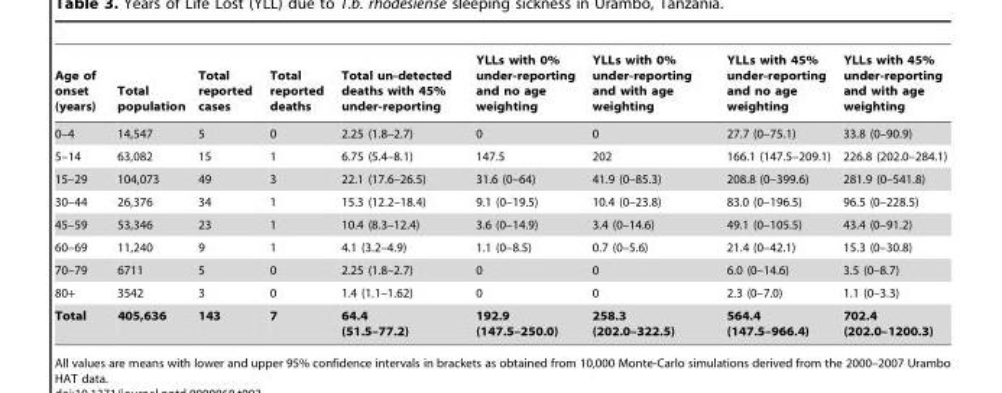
<table><thead><tr><td>Age of onset (years)</td><td>Total population</td><td>Total reported cases</td><td>Total reported deaths</td><td>Total un-detected deaths with 45% under-reporting</td><td>YLLs with 0% under-reporting and no age weighting</td><td>YLLs with 0% under-reporting and with age weighting</td><td>YLLs with 45% under-reporting and no age weighting</td><td>YLLs with 45% under-reporting and with age weighting</td></tr></thead><tbody><tr><td>0–4</td><td>14,547</td><td>5</td><td>0</td><td>2.25 (1.8–2.7)</td><td>0</td><td>0</td><td>27.7 (0–75.1)</td><td>33.8 (0–90.9)</td></tr><tr><td>5–14</td><td>63,082</td><td>15</td><td>1</td><td>6.75 (5.4–8.1)</td><td>147.5</td><td>202</td><td>166.1 (147.5–209.1)</td><td>226.8 (202.0–284.1)</td></tr><tr><td>15–29</td><td>104,073</td><td>49</td><td>3</td><td>22.1 (17.6–26.5)</td><td>31.6 (0–64)</td><td>41.9 (0–85.3)</td><td>208.8 (0–399.6)</td><td>281.9 (0–541.8)</td></tr><tr><td>30–44</td><td>26,376</td><td>34</td><td>1</td><td>15.3 (12.2–18.4)</td><td>9.1 (0–19.5)</td><td>10.4 (0–23.8)</td><td>83.0 (0–196.5)</td><td>96.5 (0–228.5)</td></tr><tr><td>45–59</td><td>53,346</td><td>23</td><td>1</td><td>10.4 (8.3–12.4)</td><td>3.6 (0–14.9)</td><td>3.4 (0–14.6)</td><td>49.1 (0–105.5)</td><td>43.4 (0–91.2)</td></tr><tr><td>60–69</td><td>11,240</td><td>9</td><td>1</td><td>4.1 (3.2–4.9)</td><td>1.1 (0–8.5)</td><td>0.7 (0–5.6)</td><td>21.4 (0–42.1)</td><td>15.3 (0–30.8)</td></tr><tr><td>70–79</td><td>6711</td><td>5</td><td>0</td><td>2.25 (1.8–2.7)</td><td>0</td><td>0</td><td>6.0 (0–14.6)</td><td>3.5 (0–8.7)</td></tr><tr><td>80+</td><td>3542</td><td>3</td><td>0</td><td>1.4 (1.1–1.62)</td><td>0</td><td>0</td><td>2.3 (0–7.0)</td><td>1.1 (0–3.3)</td></tr><tr><td>Total</td><td>405,636</td><td>143</td><td>7</td><td>64.4 (51.5–77.2)</td><td>192.9 (147.5–250.0)</td><td>258.3 (202.0–322.5)</td><td>564.4 (147.5–966.4)</td><td>702.4 (202.0–1200.3)</td></tr></tbody></table>